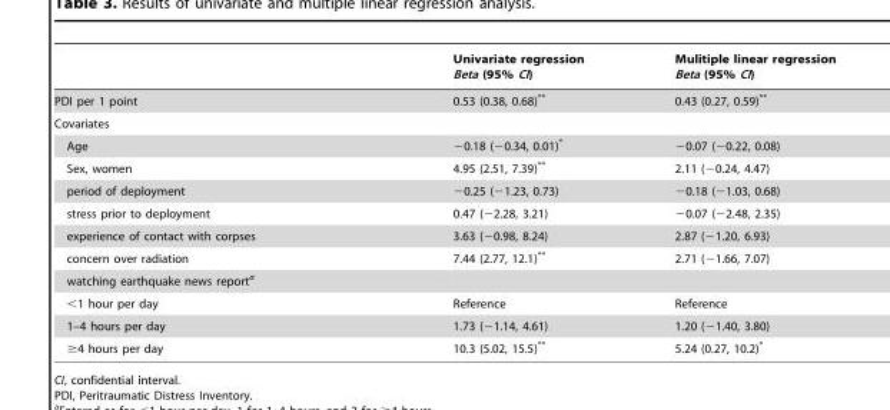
<table><thead><tr><td></td><td>Univariate regression Beta (95% CI)</td><td>Mulitiple linear regression Beta (95% CI)</td></tr></thead><tbody><tr><td>PDI per 1 point</td><td>0.53 (0.38, 0.68)**</td><td>0.43 (0.27, 0.59)**</td></tr><tr><td colspan="3">Covariates</td></tr><tr><td>Age</td><td>−0.18 (−0.34, 0.01)*</td><td>−0.07 (−0.22, 0.08)</td></tr><tr><td>Sex, women</td><td>4.95 (2.51, 7.39)**</td><td>2.11 (−0.24, 4.47)</td></tr><tr><td>period of deployment</td><td>−0.25 (−1.23, 0.73)</td><td>−0.18 (−1.03, 0.68)</td></tr><tr><td>stress prior to deployment</td><td>0.47 (−2.28, 3.21)</td><td>−0.07 (−2.48, 2.35)</td></tr><tr><td>experience of contact with corpses</td><td>3.63 (−0.98, 8.24)</td><td>2.87 (−1.20, 6.93)</td></tr><tr><td>concern over radiation</td><td>7.44 (2.77, 12.1)**</td><td>2.71 (−1.66, 7.07)</td></tr><tr><td colspan="3">watching earthquake news report<sup>a</sup></td></tr><tr><td>&lt;1 hour per day</td><td>Reference</td><td>Reference</td></tr><tr><td>1–4 hours per day</td><td>1.73 (−1.14, 4.61)</td><td>1.20 (−1.40, 3.80)</td></tr><tr><td>≥4 hours per day</td><td>10.3 (5.02, 15.5)**</td><td>5.24 (0.27, 10.2)*</td></tr></tbody></table>